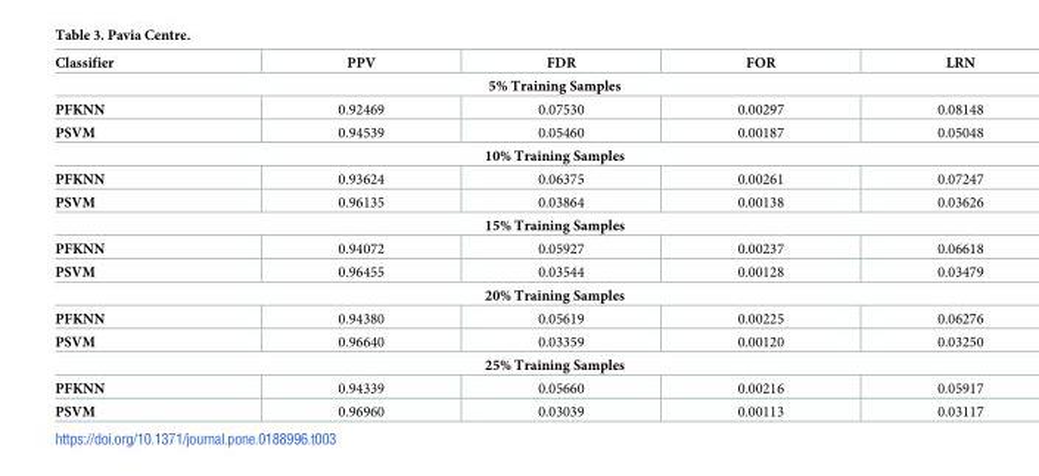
<table><thead><tr><td>Classifier</td><td>PPV</td><td>FDR</td><td>FOR</td><td>LRN</td></tr></thead><tbody><tr><td colspan="5">5% Training Samples</td></tr><tr><td>PFKNN</td><td>0.92469</td><td>0.07530</td><td>0.00297</td><td>0.08148</td></tr><tr><td>PSVM</td><td>0.94539</td><td>0.05460</td><td>0.00187</td><td>0.05048</td></tr><tr><td colspan="5">10% Training Samples</td></tr><tr><td>PFKNN</td><td>0.93624</td><td>0.06375</td><td>0.00261</td><td>0.07247</td></tr><tr><td>PSVM</td><td>0.96135</td><td>0.03864</td><td>0.00138</td><td>0.03626</td></tr><tr><td colspan="5">15% Training Samples</td></tr><tr><td>PFKNN</td><td>0.94072</td><td>0.05927</td><td>0.00237</td><td>0.06618</td></tr><tr><td>PSVM</td><td>0.96455</td><td>0.03544</td><td>0.00128</td><td>0.03479</td></tr><tr><td colspan="5">20% Training Samples</td></tr><tr><td>PFKNN</td><td>0.94380</td><td>0.05619</td><td>0.00225</td><td>0.06276</td></tr><tr><td>PSVM</td><td>0.96640</td><td>0.03359</td><td>0.00120</td><td>0.03250</td></tr><tr><td colspan="5">25% Training Samples</td></tr><tr><td>PFKNN</td><td>0.94339</td><td>0.05660</td><td>0.00216</td><td>0.05917</td></tr><tr><td>PSVM</td><td>0.96960</td><td>0.03039</td><td>0.00113</td><td>0.03117</td></tr></tbody></table>